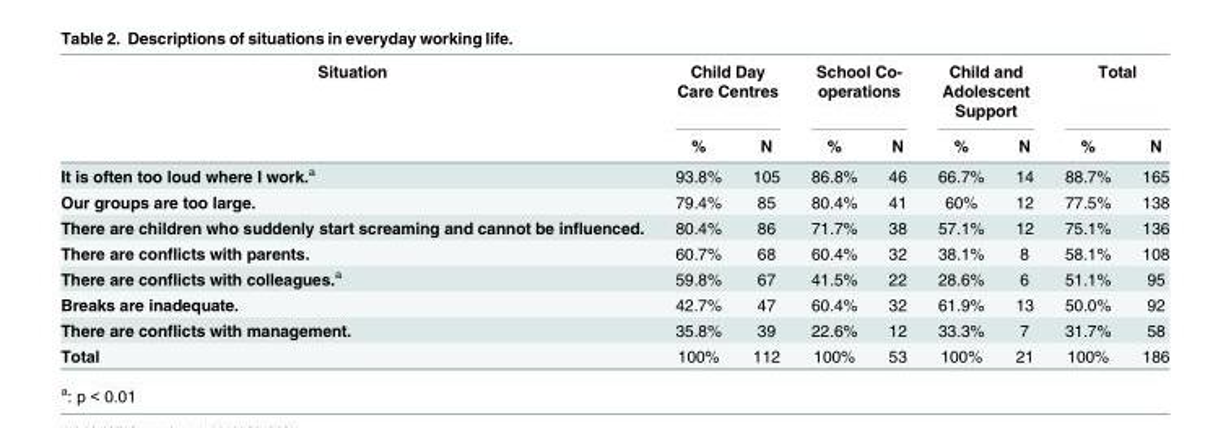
<table><thead><tr><td rowspan="2">Situation</td><td colspan="2">Child Day Care Centres</td><td colspan="2">School Co- operations</td><td colspan="2">Child and Adolescent Support</td><td colspan="2">Total</td></tr><tr><td>%</td><td>N</td><td>%</td><td>N</td><td>%</td><td>N</td><td>%</td><td>N</td></tr></thead><tbody><tr><td>It is often too loud where I work.<sup>a</sup></td><td>93.8%</td><td>105</td><td>86.8%</td><td>46</td><td>66.7%</td><td>14</td><td>88.7%</td><td>165</td></tr><tr><td>Our groups are too large.</td><td>79.4%</td><td>85</td><td>80.4%</td><td>41</td><td>60%</td><td>12</td><td>77.5%</td><td>138</td></tr><tr><td>There are children who suddenly start screaming and cannot be influenced.</td><td>80.4%</td><td>86</td><td>71.7%</td><td>38</td><td>57.1%</td><td>12</td><td>75.1%</td><td>136</td></tr><tr><td>There are conflicts with parents.</td><td>60.7%</td><td>68</td><td>60.4%</td><td>32</td><td>38.1%</td><td>8</td><td>58.1%</td><td>108</td></tr><tr><td>There are conflicts with colleagues.<sup>a</sup></td><td>59.8%</td><td>67</td><td>41.5%</td><td>22</td><td>28.6%</td><td>6</td><td>51.1%</td><td>95</td></tr><tr><td>Breaks are inadequate.</td><td>42.7%</td><td>47</td><td>60.4%</td><td>32</td><td>61.9%</td><td>13</td><td>50.0%</td><td>92</td></tr><tr><td>There are conflicts with management.</td><td>35.8%</td><td>39</td><td>22.6%</td><td>12</td><td>33.3%</td><td>7</td><td>31.7%</td><td>58</td></tr><tr><td>Total</td><td>100%</td><td>112</td><td>100%</td><td>53</td><td>100%</td><td>21</td><td>100%</td><td>186</td></tr></tbody></table>